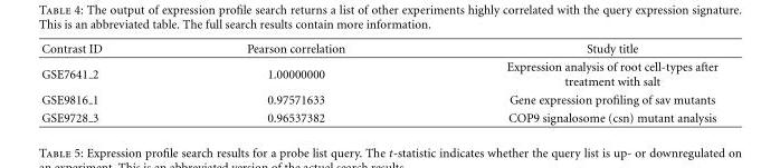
<table><thead><tr><td>Contrast ID</td><td>Pearson correlation</td><td>Study title</td></tr></thead><tbody><tr><td>GSE7641 2</td><td>1.00000000</td><td>Expression analysis of root cell-types after treatment with salt</td></tr><tr><td>GSE9816 1</td><td>0.97571633</td><td>Gene expression profiling of sav mutants</td></tr><tr><td>GSE9728 3</td><td>0.96537382</td><td>COP9 signalosome (csn) mutant analysis</td></tr></tbody></table>